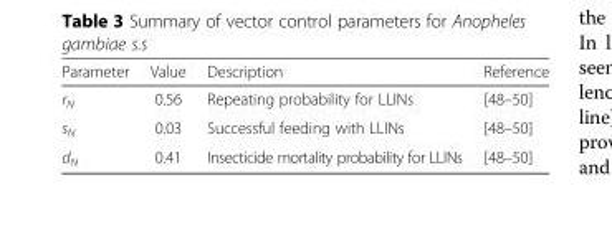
<table><thead><tr><td>Parameter</td><td>Value</td><td>Description</td><td>Reference</td></tr></thead><tbody><tr><td>r<sub>N</sub></td><td>0.56</td><td>Repeating probability for LLINs</td><td>[48–50]</td></tr><tr><td>s<sub>N</sub></td><td>0.03</td><td>Successful feeding with LLINs</td><td>[48–50]</td></tr><tr><td>d<sub>N</sub></td><td>0.41</td><td>Insecticide mortality probability for LLINs</td><td>[48–50]</td></tr></tbody></table>